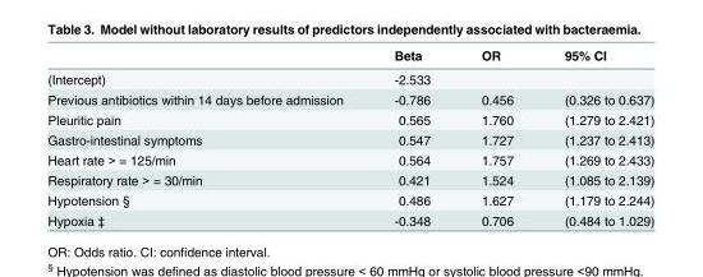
<table><thead><tr><td></td><td>Beta</td><td>OR</td><td>95% CI</td></tr></thead><tbody><tr><td>(Intercept)</td><td>-2.533</td><td></td><td></td></tr><tr><td>Previous antibiotics within 14 days before admission</td><td>-0.786</td><td>0.456</td><td>(0.326 to 0.637)</td></tr><tr><td>Pleuritic pain</td><td>0.565</td><td>1.760</td><td>(1.279 to 2.421)</td></tr><tr><td>Gastro-intestinal symptoms</td><td>0.547</td><td>1.727</td><td>(1.237 to 2.413)</td></tr><tr><td>Heart rate &gt; = 125/min</td><td>0.564</td><td>1.757</td><td>(1.269 to 2.433)</td></tr><tr><td>Respiratory rate &gt; = 30/min</td><td>0.421</td><td>1.524</td><td>(1.085 to 2.139)</td></tr><tr><td>Hypotension §</td><td>0.486</td><td>1.627</td><td>(1.179 to 2.244)</td></tr><tr><td>Hypoxia ‡</td><td>-0.348</td><td>0.706</td><td>(0.484 to 1.029)</td></tr></tbody></table>